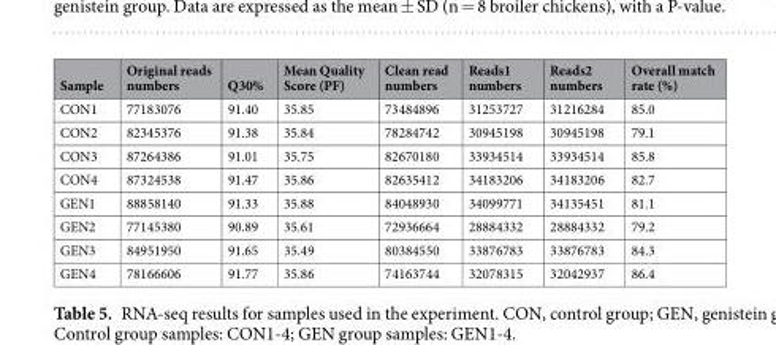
<table><thead><tr><td>Sample</td><td>Original reads numbers</td><td>Q30%</td><td>Mean Quality Score (PF)</td><td>Clean read numbers</td><td>Reads1 numbers</td><td>Reads2 numbers</td><td>Overall match rate (%)</td></tr></thead><tbody><tr><td>CON1</td><td>77183076</td><td>91.40</td><td>35.85</td><td>73484896</td><td>31253727</td><td>31216284</td><td>85.0</td></tr><tr><td>CON2</td><td>82345376</td><td>91.38</td><td>35.84</td><td>78284742</td><td>30945198</td><td>30945198</td><td>79.1</td></tr><tr><td>CON3</td><td>87264386</td><td>91.01</td><td>35.75</td><td>82670180</td><td>33934514</td><td>33934514</td><td>85.8</td></tr><tr><td>CON4</td><td>87324538</td><td>91.47</td><td>35.86</td><td>82635412</td><td>34183206</td><td>34183206</td><td>82.7</td></tr><tr><td>GEN1</td><td>88858140</td><td>91.33</td><td>35.88</td><td>84048930</td><td>34099771</td><td>34135451</td><td>81.1</td></tr><tr><td>GEN2</td><td>77145380</td><td>90.89</td><td>35.61</td><td>72936664</td><td>28884332</td><td>28884332</td><td>79.2</td></tr><tr><td>GEN3</td><td>84951950</td><td>91.65</td><td>35.49</td><td>80384550</td><td>33876783</td><td>33876783</td><td>84.3</td></tr><tr><td>GEN4</td><td>78166606</td><td>91.77</td><td>35.86</td><td>74163744</td><td>32078315</td><td>32042937</td><td>86.4</td></tr></tbody></table>